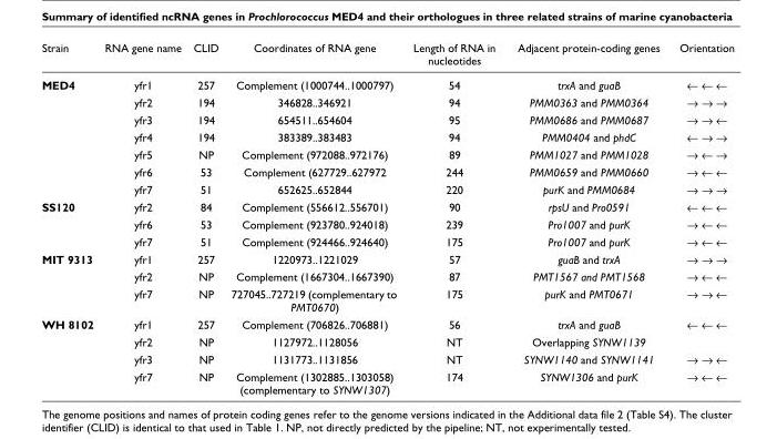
<table><thead><tr><td>Strain</td><td>RNA gene name</td><td>CLID</td><td>Coordinates of RNA gene</td><td>Length of RNA in nucleotides</td><td>Adjacent protein-coding genes</td><td>Orientation</td></tr></thead><tbody><tr><td rowspan="7">MED4</td><td>yfr1</td><td>257</td><td>Complement (1000744..1000797)</td><td>54</td><td>trxA and guaB</td><td>← ← ←</td></tr><tr><td>yfr2</td><td>194</td><td>346828..346921</td><td>94</td><td>PMM0363 and PMM0364</td><td>→ → →</td></tr><tr><td>yfr3</td><td>194</td><td>654511..654604</td><td>95</td><td>PMM0686 and PMM0687</td><td>→ → ←</td></tr><tr><td>yfr4</td><td>194</td><td>383389..383483</td><td>94</td><td>PMM0404 and phdC</td><td>← → →</td></tr><tr><td>yfr5</td><td>NP</td><td>Complement (972088..972176)</td><td>89</td><td>PMM1027 and PMM1028</td><td>→ ← →</td></tr><tr><td>yfr6</td><td>53</td><td>Complement (627729..627972</td><td>244</td><td>PMM0659 and PMM0660</td><td>→ ← ←</td></tr><tr><td>yfr7</td><td>51</td><td>652625..652844</td><td>220</td><td>purK and PMM0684</td><td>→ → →</td></tr><tr><td rowspan="3">SS120</td><td>yfr2</td><td>84</td><td>Complement (556612..556701)</td><td>90</td><td>rpsU and Pro0591</td><td>← ← ←</td></tr><tr><td>yfr6</td><td>53</td><td>Complement (923780..924018)</td><td>239</td><td>Pro1007 and purK</td><td>→ ← ←</td></tr><tr><td>yfr7</td><td>51</td><td>Complement (924466..924640)</td><td>175</td><td>Pro1007 and purK</td><td>→ ← ←</td></tr><tr><td rowspan="3">MIT 9313</td><td>yfr1</td><td>257</td><td>1220973..1221029</td><td>57</td><td>guaB and trxA</td><td>→ → →</td></tr><tr><td>yfr2</td><td>NP</td><td>Complement (1667304..1667390)</td><td>87</td><td>PMT1567 and PMT1568</td><td>→ ← ←</td></tr><tr><td>yfr7</td><td>NP</td><td>727045..727219 (complementary to PMT0670)</td><td>175</td><td>purK and PMT0671</td><td>→ → ←</td></tr><tr><td rowspan="4">WH 8102</td><td>yfr1</td><td>257</td><td>Complement (706826..706881)</td><td>56</td><td>trxA and guaB</td><td>← ← ←</td></tr><tr><td>yfr2</td><td>NP</td><td>1127972..1128056</td><td>NT</td><td>Overlapping SYNW1139</td><td></td></tr><tr><td>yfr3</td><td>NP</td><td>1131773..1131856</td><td>NT</td><td>SYNW1140 and SYNW1141</td><td>→ → ←</td></tr><tr><td>yfr7</td><td>NP</td><td>Complement (1302885..1303058) (complementary to SYNW1307)</td><td>174</td><td>SYNW1306 and purK</td><td>→ ← ←</td></tr></tbody></table>